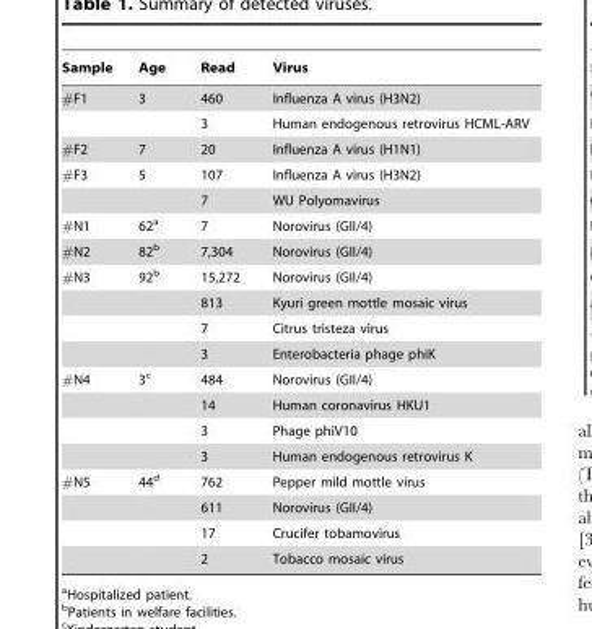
<table><thead><tr><td>Sample</td><td>Age</td><td>Read</td><td>Virus</td></tr></thead><tbody><tr><td rowspan="2">#F1</td><td>3</td><td>460</td><td>Influenza A virus (H3N2)</td></tr><tr><td></td><td>3</td><td>Human endogenous retrovirus HCML-ARV</td></tr><tr><td>#F2</td><td>7</td><td>20</td><td>Influenza A virus (H1N1)</td></tr><tr><td rowspan="2">#F3</td><td>5</td><td>107</td><td>Influenza A virus (H3N2)</td></tr><tr><td></td><td>7</td><td>WU Polyomavirus</td></tr><tr><td>#N1</td><td>62<sup>a</sup></td><td>7</td><td>Norovirus (GII/4)</td></tr><tr><td>#N2</td><td>82<sup>b</sup></td><td>7,304</td><td>Norovirus (GII/4)</td></tr><tr><td rowspan="4">#N3</td><td>92<sup>b</sup></td><td>15,272</td><td>Norovirus (GII/4)</td></tr><tr><td></td><td>813</td><td>Kyuri green mottle mosaic virus</td></tr><tr><td></td><td>7</td><td>Citrus tristeza virus</td></tr><tr><td></td><td>3</td><td>Enterobacteria phage phiK</td></tr><tr><td rowspan="4">#N4</td><td>3<sup>c</sup></td><td>484</td><td>Norovirus (GII/4)</td></tr><tr><td></td><td>14</td><td>Human coronavirus HKU1</td></tr><tr><td></td><td>3</td><td>Phage phiV10</td></tr><tr><td></td><td>3</td><td>Human endogenous retrovirus K</td></tr><tr><td rowspan="4">#N5</td><td>44<sup>d</sup></td><td>762</td><td>Pepper mild mottle virus</td></tr><tr><td></td><td>611</td><td>Norovirus (GII/4)</td></tr><tr><td></td><td>17</td><td>Crucifer tobamovirus</td></tr><tr><td></td><td>2</td><td>Tobacco mosaic virus</td></tr></tbody></table>